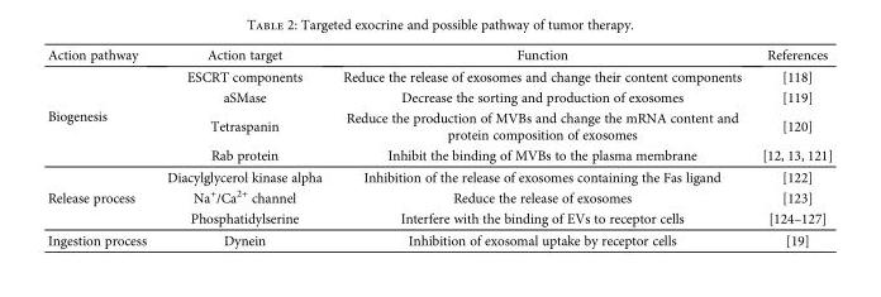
<table><thead><tr><td>Action pathway</td><td>Action target</td><td>Function</td><td>References</td></tr></thead><tbody><tr><td rowspan="4">Biogenesis</td><td>ESCRT components</td><td>Reduce the release of exosomes and change their content components</td><td>[118]</td></tr><tr><td>aSMase</td><td>Decrease the sorting and production of exosomes</td><td>[119]</td></tr><tr><td>Tetraspanin</td><td>Reduce the production of MVBs and change the mRNA content and protein composition of exosomes</td><td>[120]</td></tr><tr><td>Rab protein</td><td>Inhibit the binding of MVBs to the plasma membrane</td><td>[12, 13, 121]</td></tr><tr><td rowspan="3">Release process</td><td>Diacylglycerol kinase alpha</td><td>Inhibition of the release of exosomes containing the Fas ligand</td><td>[122]</td></tr><tr><td>Na<sup>+</sup>/Ca<sup>2+</sup> channel</td><td>Reduce the release of exosomes</td><td>[123]</td></tr><tr><td>Phosphatidylserine</td><td>Interfere with the binding of EVs to receptor cells</td><td>[124–127]</td></tr><tr><td>Ingestion process</td><td>Dynein</td><td>Inhibition of exosomal uptake by receptor cells</td><td>[19]</td></tr></tbody></table>